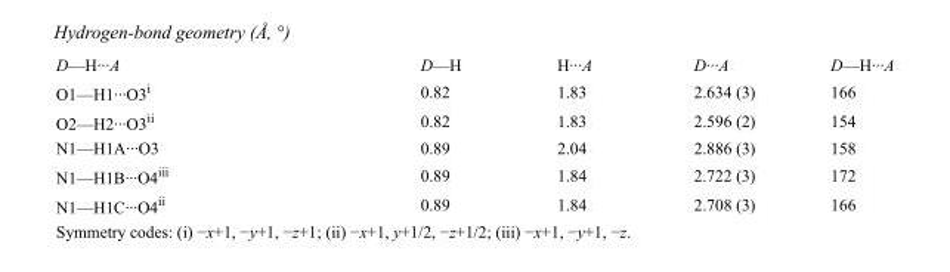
<table><tbody><tr><td>D—H···A</td><td>D—H</td><td>H···A</td><td>D···A</td><td>D—H···A</td></tr><tr><td>O1—H1···O3<sup>i</sup></td><td>0.82</td><td>1.83</td><td>2.634 (3)</td><td>166</td></tr><tr><td>O2—H2···O3<sup>ii</sup></td><td>0.82</td><td>1.83</td><td>2.596 (2)</td><td>154</td></tr><tr><td>N1—H1A···O3</td><td>0.89</td><td>2.04</td><td>2.886 (3)</td><td>158</td></tr><tr><td>N1—H1B···O4<sup>iii</sup></td><td>0.89</td><td>1.84</td><td>2.722 (3)</td><td>172</td></tr><tr><td>N1—H1C···O4<sup>ii</sup></td><td>0.89</td><td>1.84</td><td>2.708 (3)</td><td>166</td></tr></tbody></table>